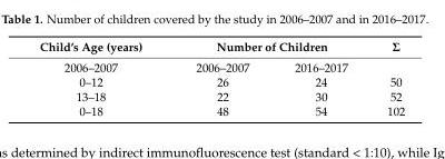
<table><thead><tr><td rowspan="2">Child’s Age (years) 2006–2007</td><td colspan="2">Number of Children</td><td rowspan="2">Σ</td></tr><tr><td>2006–2007</td><td>2016–2017</td></tr></thead><tbody><tr><td>0–12</td><td>26</td><td>24</td><td>50</td></tr><tr><td>13–18</td><td>22</td><td>30</td><td>52</td></tr><tr><td>0–18</td><td>48</td><td>54</td><td>102</td></tr></tbody></table>